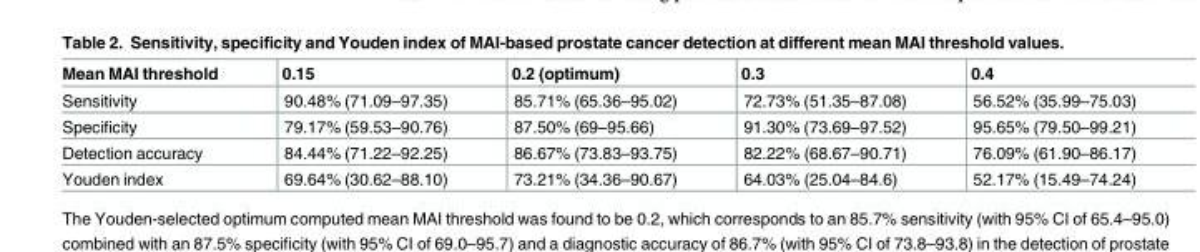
<table><thead><tr><td>Mean MAI threshold</td><td>0.15</td><td>0.2 (optimum)</td><td>0.3</td><td>0.4</td></tr></thead><tbody><tr><td>Sensitivity</td><td>90.48% (71.09–97.35)</td><td>85.71% (65.36–95.02)</td><td>72.73% (51.35–87.08)</td><td>56.52% (35.99–75.03)</td></tr><tr><td>Specificity</td><td>79.17% (59.53–90.76)</td><td>87.50% (69–95.66)</td><td>91.30% (73.69–97.52)</td><td>95.65% (79.50–99.21)</td></tr><tr><td>Detection accuracy</td><td>84.44% (71.22–92.25)</td><td>86.67% (73.83–93.75)</td><td>82.22% (68.67–90.71)</td><td>76.09% (61.90–86.17)</td></tr><tr><td>Youden index</td><td>69.64% (30.62–88.10)</td><td>73.21% (34.36–90.67)</td><td>64.03% (25.04–84.6)</td><td>52.17% (15.49–74.24)</td></tr></tbody></table>